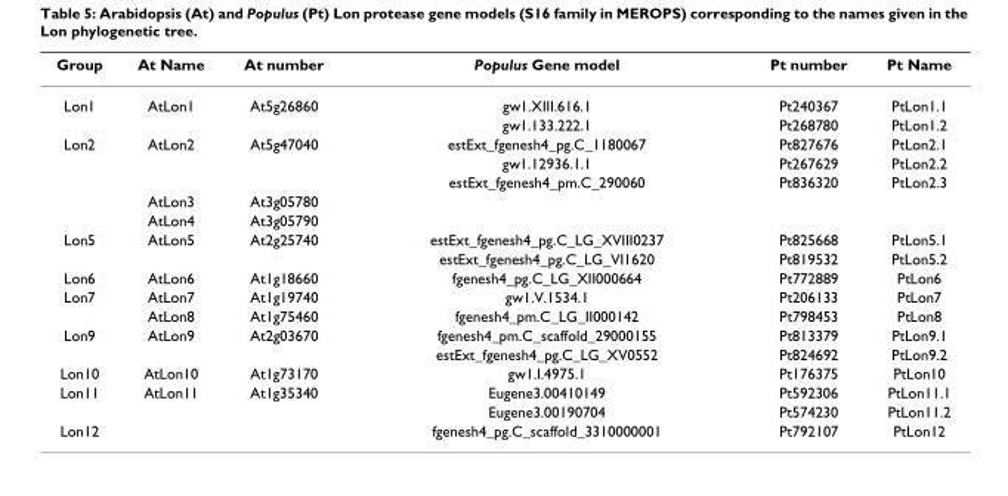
<table><thead><tr><td>Group</td><td>At Name</td><td>At number</td><td>Populus Gene model</td><td>Pt number</td><td>Pt Name</td></tr></thead><tbody><tr><td rowspan="2">Lon1</td><td>AtLon1</td><td>At5g26860</td><td>gw1.XIII.616.1</td><td>Pt240367</td><td>PtLon1.1</td></tr><tr><td></td><td></td><td>gw1.133.222.1</td><td>Pt268780</td><td>PtLon1.2</td></tr><tr><td rowspan="5">Lon2</td><td>AtLon2</td><td>At5g47040</td><td>estExt_fgenesh4_pg.C_1180067</td><td>Pt827676</td><td>PtLon2.1</td></tr><tr><td></td><td></td><td>gw1.12936.1.1</td><td>Pt267629</td><td>PtLon2.2</td></tr><tr><td></td><td></td><td>estExt_fgenesh4_pm.C_290060</td><td>Pt836320</td><td>PtLon2.3</td></tr><tr><td>AtLon3</td><td>At3g05780</td><td></td><td></td><td></td></tr><tr><td>AtLon4</td><td>At3g05790</td><td></td><td></td><td></td></tr><tr><td rowspan="2">Lon5</td><td>AtLon5</td><td>At2g25740</td><td>estExt_fgenesh4_pg.C_LG_XVIII0237</td><td>Pt825668</td><td>PtLon5.1</td></tr><tr><td></td><td></td><td>estExt_fgenesh4_pg.C_LG_VI1620</td><td>Pt819532</td><td>PtLon5.2</td></tr><tr><td>Lon6</td><td>AtLon6</td><td>At1g18660</td><td>fgenesh4_pg.C_LG_XII000664</td><td>Pt772889</td><td>PtLon6</td></tr><tr><td rowspan="2">Lon7</td><td>AtLon7</td><td>At1g19740</td><td>gw1.V.1534.1</td><td>Pt206133</td><td>PtLon7</td></tr><tr><td>AtLon8</td><td>At1g75460</td><td>fgenesh4_pm.C_LG_II000142</td><td>Pt798453</td><td>PtLon8</td></tr><tr><td rowspan="2">Lon9</td><td>AtLon9</td><td>At2g03670</td><td>fgenesh4_pm.C_scaffold_29000155</td><td>Pt813379</td><td>PtLon9.1</td></tr><tr><td></td><td></td><td>estExt_fgenesh4_pg.C_LG_XV0552</td><td>Pt824692</td><td>PtLon9.2</td></tr><tr><td>Lon10</td><td>AtLon10</td><td>At1g73170</td><td>gw1.I.4975.1</td><td>Pt176375</td><td>PtLon10</td></tr><tr><td rowspan="2">Lon11</td><td>AtLon11</td><td>At1g35340</td><td>Eugene3.00410149</td><td>Pt592306</td><td>PtLon11.1</td></tr><tr><td></td><td></td><td>Eugene3.00190704</td><td>Pt574230</td><td>PtLon11.2</td></tr><tr><td>Lon12</td><td></td><td></td><td>fgenesh4_pg.C_scaffold_3310000001</td><td>Pt792107</td><td>PtLon12</td></tr></tbody></table>